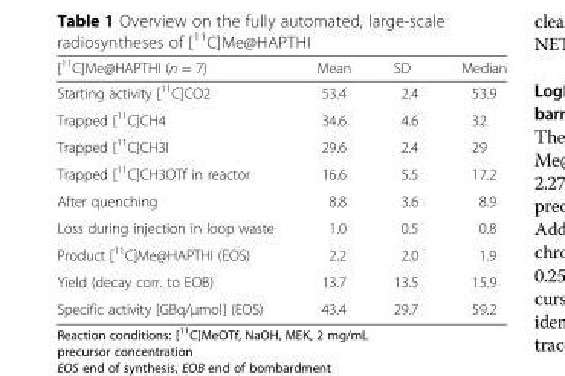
<table><thead><tr><td>[<sup>11</sup>C]Me@HAPTHI (n = 7)</td><td>Mean</td><td>SD</td><td>Median</td></tr></thead><tbody><tr><td>Starting activity [<sup>11</sup>C]CO2</td><td>53.4</td><td>2.4</td><td>53.9</td></tr><tr><td>Trapped [<sup>11</sup>C]CH4</td><td>34.6</td><td>4.6</td><td>32</td></tr><tr><td>Trapped [<sup>11</sup>C]CH3I</td><td>29.6</td><td>2.4</td><td>29</td></tr><tr><td>Trapped [<sup>11</sup>C]CH3OTf in reactor</td><td>16.6</td><td>5.5</td><td>17.2</td></tr><tr><td>After quenching</td><td>8.8</td><td>3.6</td><td>8.9</td></tr><tr><td>Loss during injection in loop waste</td><td>1.0</td><td>0.5</td><td>0.8</td></tr><tr><td>Product [<sup>11</sup>C]Me@HAPTHI (EOS)</td><td>2.2</td><td>2.0</td><td>1.9</td></tr><tr><td>Yield (decay corr. to EOB)</td><td>13.7</td><td>13.5</td><td>15.9</td></tr><tr><td>Specific activity [GBq/μmol] (EOS)</td><td>43.4</td><td>29.7</td><td>59.2</td></tr></tbody></table>